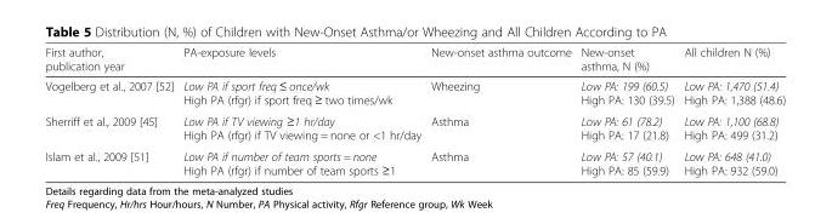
<table><thead><tr><td>First author, publication year</td><td>PA-exposure levels</td><td>New-onset asthma outcome</td><td>New-onset asthma, N (%)</td><td>All children N (%)</td></tr></thead><tbody><tr><td>Vogelberg et al., 2007 [52]</td><td>Low PA if sport freq ≤ once/wk High PA (rfgr) if sport freq ≥ two times/wk</td><td>Wheezing</td><td>Low PA: 199 (60.5) High PA: 130 (39.5)</td><td>Low PA: 1,470 (51.4) High PA: 1,388 (48.6)</td></tr><tr><td>Sherriff et al., 2009 [45]</td><td>Low PA if TV viewing ≥1 hr/day High PA (rfgr) if TV viewing = none or &lt;1 hr/day</td><td>Asthma</td><td>Low PA: 61 (78.2) High PA: 17 (21.8)</td><td>Low PA: 1,100 (68.8) High PA: 499 (31.2)</td></tr><tr><td>Islam et al., 2009 [51]</td><td>Low PA if number of team sports = none High PA (rfgr) if number of team sports ≥1</td><td>Asthma</td><td>Low PA: 57 (40.1) High PA: 85 (59.9)</td><td>Low PA: 648 (41.0) High PA: 932 (59.0)</td></tr></tbody></table>